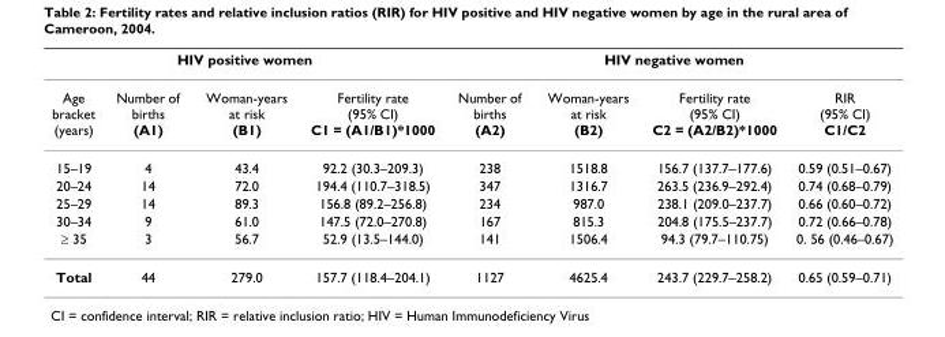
<table><thead><tr><td colspan="4">HIV positive women</td><td colspan="4">HIV negative women</td></tr><tr><td>Age bracket (years)</td><td>Number of births (A1)</td><td>Woman-years at risk (B1)</td><td>Fertility rate (95% CI) C1 = (A1/B1)*1000</td><td>Number of births (A2)</td><td>Woman-years at risk (B2)</td><td>Fertility rate (95% CI) C2 = (A2/B2)*1000</td><td>RIR (95% CI) C1/C2</td></tr></thead><tbody><tr><td>15–19</td><td>4</td><td>43.4</td><td>92.2 (30.3–209.3)</td><td>238</td><td>1518.8</td><td>156.7 (137.7–177.6)</td><td>0.59 (0.51–0.67)</td></tr><tr><td>20–24</td><td>14</td><td>72.0</td><td>194.4 (110.7–318.5)</td><td>347</td><td>1316.7</td><td>263.5 (236.9–292.4)</td><td>0.74 (0.68–0.79)</td></tr><tr><td>25–29</td><td>14</td><td>89.3</td><td>156.8 (89.2–256.8)</td><td>234</td><td>987.0</td><td>238.1 (209.0–237.7)</td><td>0.66 (0.60–0.72)</td></tr><tr><td>30–34</td><td>9</td><td>61.0</td><td>147.5 (72.0–270.8)</td><td>167</td><td>815.3</td><td>204.8 (175.5–237.7)</td><td>0.72 (0.66–0.78)</td></tr><tr><td>≥ 35</td><td>3</td><td>56.7</td><td>52.9 (13.5–144.0)</td><td>141</td><td>1506.4</td><td>94.3 (79.7–110.75)</td><td>0. 56 (0.46–0.67)</td></tr><tr><td>Total</td><td>44</td><td>279.0</td><td>157.7 (118.4–204.1)</td><td>1127</td><td>4625.4</td><td>243.7 (229.7–258.2)</td><td>0.65 (0.59–0.71)</td></tr></tbody></table>